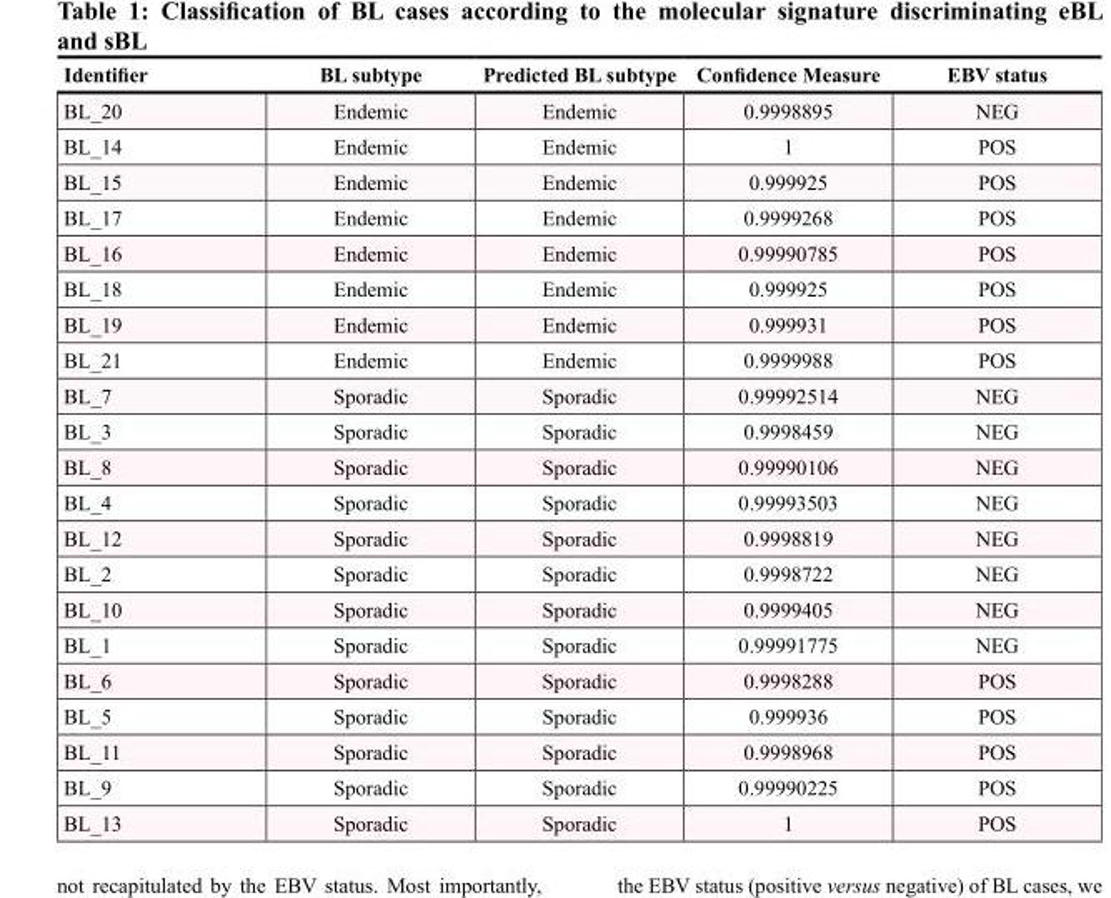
<table><thead><tr><td>Identifier</td><td>BL subtype</td><td>Predicted BL subtype</td><td>Confidence Measure</td><td>EBV status</td></tr></thead><tbody><tr><td>BL_20</td><td>Endemic</td><td>Endemic</td><td>0.9998895</td><td>NEG</td></tr><tr><td>BL_14</td><td>Endemic</td><td>Endemic</td><td>1</td><td>POS</td></tr><tr><td>BL_15</td><td>Endemic</td><td>Endemic</td><td>0.999925</td><td>POS</td></tr><tr><td>BL_17</td><td>Endemic</td><td>Endemic</td><td>0.9999268</td><td>POS</td></tr><tr><td>BL_16</td><td>Endemic</td><td>Endemic</td><td>0.99990785</td><td>POS</td></tr><tr><td>BL_18</td><td>Endemic</td><td>Endemic</td><td>0.999925</td><td>POS</td></tr><tr><td>BL_19</td><td>Endemic</td><td>Endemic</td><td>0.999931</td><td>POS</td></tr><tr><td>BL_21</td><td>Endemic</td><td>Endemic</td><td>0.9999988</td><td>POS</td></tr><tr><td>BL_7</td><td>Sporadic</td><td>Sporadic</td><td>0.99992514</td><td>NEG</td></tr><tr><td>BL_3</td><td>Sporadic</td><td>Sporadic</td><td>0.9998459</td><td>NEG</td></tr><tr><td>BL_8</td><td>Sporadic</td><td>Sporadic</td><td>0.99990106</td><td>NEG</td></tr><tr><td>BL_4</td><td>Sporadic</td><td>Sporadic</td><td>0.99993503</td><td>NEG</td></tr><tr><td>BL_12</td><td>Sporadic</td><td>Sporadic</td><td>0.9998819</td><td>NEG</td></tr><tr><td>BL_2</td><td>Sporadic</td><td>Sporadic</td><td>0.9998722</td><td>NEG</td></tr><tr><td>BL_10</td><td>Sporadic</td><td>Sporadic</td><td>0.9999405</td><td>NEG</td></tr><tr><td>BL_1</td><td>Sporadic</td><td>Sporadic</td><td>0.99991775</td><td>NEG</td></tr><tr><td>BL_6</td><td>Sporadic</td><td>Sporadic</td><td>0.9998288</td><td>POS</td></tr><tr><td>BL_5</td><td>Sporadic</td><td>Sporadic</td><td>0.999936</td><td>POS</td></tr><tr><td>BL_11</td><td>Sporadic</td><td>Sporadic</td><td>0.9998968</td><td>POS</td></tr><tr><td>BL_9</td><td>Sporadic</td><td>Sporadic</td><td>0.99990225</td><td>POS</td></tr><tr><td>BL_13</td><td>Sporadic</td><td>Sporadic</td><td>1</td><td>POS</td></tr></tbody></table>